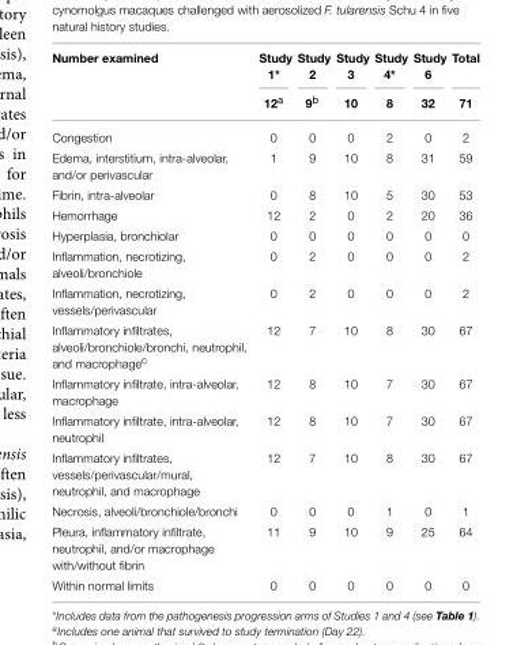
<table><thead><tr><td rowspan="2">Number examined</td><td rowspan="2">Study 1* 12<sup>a</sup></td><td rowspan="2">Study 2 9<sup>b</sup></td><td rowspan="2">Study 3 10</td><td rowspan="2">Study 4* 8</td><td rowspan="2">Study 6 32</td><td rowspan="2">Total 71</td></tr><tr></tr></thead><tbody><tr><td>Congestion</td><td>0</td><td>0</td><td>0</td><td>2</td><td>0</td><td>2</td></tr><tr><td>Edema, interstitium, intra-alveolar, and/or perivascular</td><td>1</td><td>9</td><td>10</td><td>8</td><td>31</td><td>59</td></tr><tr><td>Fibrin, intra-alveolar</td><td>0</td><td>8</td><td>10</td><td>5</td><td>30</td><td>53</td></tr><tr><td>Hemorrhage</td><td>12</td><td>2</td><td>0</td><td>2</td><td>20</td><td>36</td></tr><tr><td>Hyperplasia, bronchiolar</td><td>0</td><td>0</td><td>0</td><td>0</td><td>0</td><td>0</td></tr><tr><td>Inflammation, necrotizing, alveoli/bronchiole</td><td>0</td><td>2</td><td>0</td><td>0</td><td>0</td><td>2</td></tr><tr><td>Inflammation, necrotizing, vessels/perivascular</td><td>0</td><td>2</td><td>0</td><td>0</td><td>0</td><td>2</td></tr><tr><td>Inflammatory infiltrates, alveoli/bronchiole/bronchi, neutrophil, and macrophage<sup>c</sup></td><td>12</td><td>7</td><td>10</td><td>8</td><td>30</td><td>67</td></tr><tr><td>Inflammatory infiltrate, intra-alveolar, macrophage</td><td>12</td><td>8</td><td>10</td><td>7</td><td>30</td><td>67</td></tr><tr><td>Inflammatory infiltrate, intra-alveolar, neutrophil</td><td>12</td><td>8</td><td>10</td><td>7</td><td>30</td><td>67</td></tr><tr><td>Inflammatory infiltrates, vessels/perivascular/mural, neutrophil, and macrophage</td><td>12</td><td>7</td><td>10</td><td>8</td><td>30</td><td>67</td></tr><tr><td>Necrosis, alveoli/bronchiole/bronchi</td><td>0</td><td>0</td><td>0</td><td>1</td><td>0</td><td>1</td></tr><tr><td>Pleura, inflammatory infiltrate, neutrophil, and/or macrophage with/without fibrin</td><td>11</td><td>9</td><td>10</td><td>9</td><td>25</td><td>64</td></tr><tr><td>Within normal limits</td><td>0</td><td>0</td><td>0</td><td>0</td><td>0</td><td>0</td></tr></tbody></table>